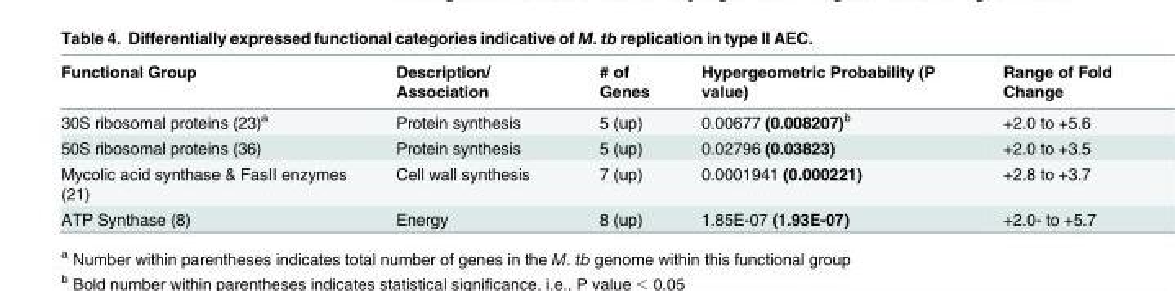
<table><thead><tr><td>Functional Group</td><td>Description/ Association</td><td># of Genes</td><td>Hypergeometric Probability (P value)</td><td>Range of Fold Change</td></tr></thead><tbody><tr><td>30S ribosomal proteins (23)<sup>a</sup></td><td>Protein synthesis</td><td>5 (up)</td><td>0.00677 (0.008207)<sup>b</sup></td><td>+2.0 to +5.6</td></tr><tr><td>50S ribosomal proteins (36)</td><td>Protein synthesis</td><td>5 (up)</td><td>0.02796 (0.03823)</td><td>+2.0 to +3.5</td></tr><tr><td>Mycolic acid synthase &amp; FasII enzymes (21)</td><td>Cell wall synthesis</td><td>7 (up)</td><td>0.0001941 (0.000221)</td><td>+2.8 to +3.7</td></tr><tr><td>ATP Synthase (8)</td><td>Energy</td><td>8 (up)</td><td>1.85E-07 (1.93E-07)</td><td>+2.0- to +5.7</td></tr></tbody></table>